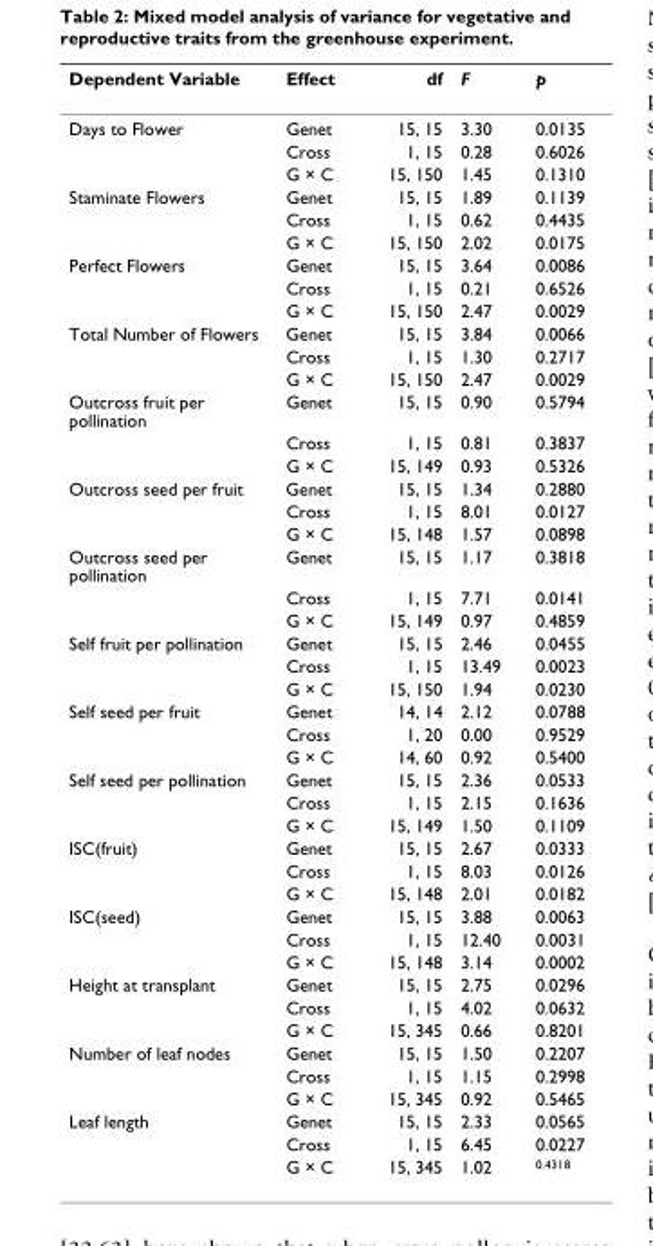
<table><thead><tr><td>Dependent Variable</td><td>Effect</td><td>df</td><td>F</td><td>p</td></tr></thead><tbody><tr><td rowspan="3">Days to Flower</td><td>Genet</td><td>15, 15</td><td>3.30</td><td>0.0135</td></tr><tr><td>Cross</td><td>1, 15</td><td>0.28</td><td>0.6026</td></tr><tr><td>G × C</td><td>15, 150</td><td>1.45</td><td>0.1310</td></tr><tr><td rowspan="3">Staminate Flowers</td><td>Genet</td><td>15, 15</td><td>1.89</td><td>0.1139</td></tr><tr><td>Cross</td><td>1, 15</td><td>0.62</td><td>0.4435</td></tr><tr><td>G × C</td><td>15, 150</td><td>2.02</td><td>0.0175</td></tr><tr><td rowspan="3">Perfect Flowers</td><td>Genet</td><td>15, 15</td><td>3.64</td><td>0.0086</td></tr><tr><td>Cross</td><td>1, 15</td><td>0.21</td><td>0.6526</td></tr><tr><td>G × C</td><td>15, 150</td><td>2.47</td><td>0.0029</td></tr><tr><td rowspan="3">Total Number of Flowers</td><td>Genet</td><td>15, 15</td><td>3.84</td><td>0.0066</td></tr><tr><td>Cross</td><td>1, 15</td><td>1.30</td><td>0.2717</td></tr><tr><td>G × C</td><td>15, 150</td><td>2.47</td><td>0.0029</td></tr><tr><td rowspan="3">Outcross fruit per pollination</td><td>Genet</td><td>15, 15</td><td>0.90</td><td>0.5794</td></tr><tr><td>Cross</td><td>1, 15</td><td>0.81</td><td>0.3837</td></tr><tr><td>G × C</td><td>15, 149</td><td>0.93</td><td>0.5326</td></tr><tr><td rowspan="3">Outcross seed per fruit</td><td>Genet</td><td>15, 15</td><td>1.34</td><td>0.2880</td></tr><tr><td>Cross</td><td>1, 15</td><td>8.01</td><td>0.0127</td></tr><tr><td>G × C</td><td>15, 148</td><td>1.57</td><td>0.0898</td></tr><tr><td rowspan="3">Outcross seed per pollination</td><td>Genet</td><td>15, 15</td><td>1.17</td><td>0.3818</td></tr><tr><td>Cross</td><td>1, 15</td><td>7.71</td><td>0.0141</td></tr><tr><td>G × C</td><td>15, 149</td><td>0.97</td><td>0.4859</td></tr><tr><td rowspan="3">Self fruit per pollination</td><td>Genet</td><td>15, 15</td><td>2.46</td><td>0.0455</td></tr><tr><td>Cross</td><td>1, 15</td><td>13.49</td><td>0.0023</td></tr><tr><td>G × C</td><td>15, 150</td><td>1.94</td><td>0.0230</td></tr><tr><td rowspan="3">Self seed per fruit</td><td>Genet</td><td>14, 14</td><td>2.12</td><td>0.0788</td></tr><tr><td>Cross</td><td>1, 20</td><td>0.00</td><td>0.9529</td></tr><tr><td>G × C</td><td>14, 60</td><td>0.92</td><td>0.5400</td></tr><tr><td rowspan="3">Self seed per pollination</td><td>Genet</td><td>15, 15</td><td>2.36</td><td>0.0533</td></tr><tr><td>Cross</td><td>1, 15</td><td>2.15</td><td>0.1636</td></tr><tr><td>G × C</td><td>15, 149</td><td>1.50</td><td>0.1109</td></tr><tr><td rowspan="3">ISC(fruit)</td><td>Genet</td><td>15, 15</td><td>2.67</td><td>0.0333</td></tr><tr><td>Cross</td><td>1, 15</td><td>8.03</td><td>0.0126</td></tr><tr><td>G × C</td><td>15, 148</td><td>2.01</td><td>0.0182</td></tr><tr><td rowspan="3">ISC(seed)</td><td>Genet</td><td>15, 15</td><td>3.88</td><td>0.0063</td></tr><tr><td>Cross</td><td>1, 15</td><td>12.40</td><td>0.0031</td></tr><tr><td>G × C</td><td>15, 148</td><td>3.14</td><td>0.0002</td></tr><tr><td rowspan="3">Height at transplant</td><td>Genet</td><td>15, 15</td><td>2.75</td><td>0.0296</td></tr><tr><td>Cross</td><td>1, 15</td><td>4.02</td><td>0.0632</td></tr><tr><td>G × C</td><td>15, 345</td><td>0.66</td><td>0.8201</td></tr><tr><td rowspan="3">Number of leaf nodes</td><td>Genet</td><td>15, 15</td><td>1.50</td><td>0.2207</td></tr><tr><td>Cross</td><td>1, 15</td><td>1.15</td><td>0.2998</td></tr><tr><td>G × C</td><td>15, 345</td><td>0.92</td><td>0.5465</td></tr><tr><td rowspan="3">Leaf length</td><td>Genet</td><td>15, 15</td><td>2.33</td><td>0.0565</td></tr><tr><td>Cross</td><td>1, 15</td><td>6.45</td><td>0.0227</td></tr><tr><td>G × C</td><td>15, 345</td><td>1.02</td><td><sup>0.4318</sup></td></tr></tbody></table>